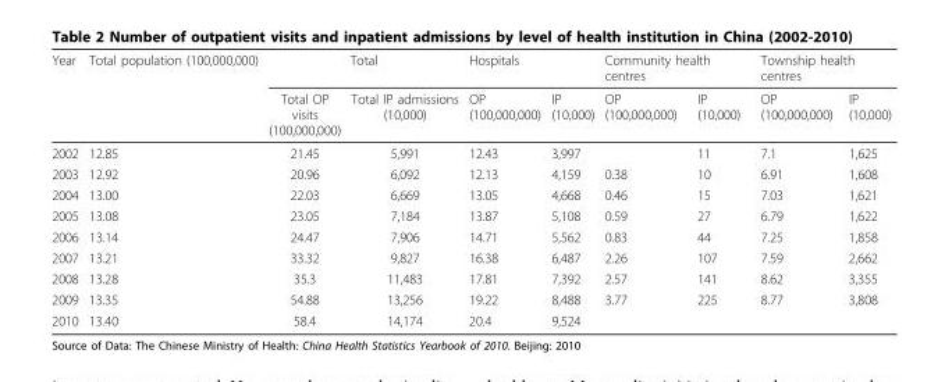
<table><thead><tr><td rowspan="2">Year</td><td rowspan="2">Total population (100,000,000)</td><td colspan="2">Total</td><td colspan="2">Hospitals</td><td colspan="2">Community health centres</td><td colspan="2">Township health centres</td></tr><tr><td>Total OP visits (100,000,000)</td><td>Total IP admissions (10,000)</td><td>OP (100,000,000)</td><td>IP (10,000)</td><td>OP (100,000,000)</td><td>IP (10,000)</td><td>OP (100,000,000)</td><td>IP (10,000)</td></tr></thead><tbody><tr><td>2002</td><td>12.85</td><td>21.45</td><td>5,991</td><td>12.43</td><td>3,997</td><td></td><td>11</td><td>7.1</td><td>1,625</td></tr><tr><td>2003</td><td>12.92</td><td>20.96</td><td>6,092</td><td>12.13</td><td>4,159</td><td>0.38</td><td>10</td><td>6.91</td><td>1,608</td></tr><tr><td>2004</td><td>13.00</td><td>22.03</td><td>6,669</td><td>13.05</td><td>4,668</td><td>0.46</td><td>15</td><td>7.03</td><td>1,621</td></tr><tr><td>2005</td><td>13.08</td><td>23.05</td><td>7,184</td><td>13.87</td><td>5,108</td><td>0.59</td><td>27</td><td>6.79</td><td>1,622</td></tr><tr><td>2006</td><td>13.14</td><td>24.47</td><td>7,906</td><td>14.71</td><td>5,562</td><td>0.83</td><td>44</td><td>7.25</td><td>1,858</td></tr><tr><td>2007</td><td>13.21</td><td>33.32</td><td>9,827</td><td>16.38</td><td>6,487</td><td>2.26</td><td>107</td><td>7.59</td><td>2,662</td></tr><tr><td>2008</td><td>13.28</td><td>35.3</td><td>11,483</td><td>17.81</td><td>7,392</td><td>2.57</td><td>141</td><td>8.62</td><td>3,355</td></tr><tr><td>2009</td><td>13.35</td><td>54.88</td><td>13,256</td><td>19.22</td><td>8,488</td><td>3.77</td><td>225</td><td>8.77</td><td>3,808</td></tr><tr><td>2010</td><td>13.40</td><td>58.4</td><td>14,174</td><td>20.4</td><td>9,524</td><td></td><td></td><td></td><td></td></tr></tbody></table>